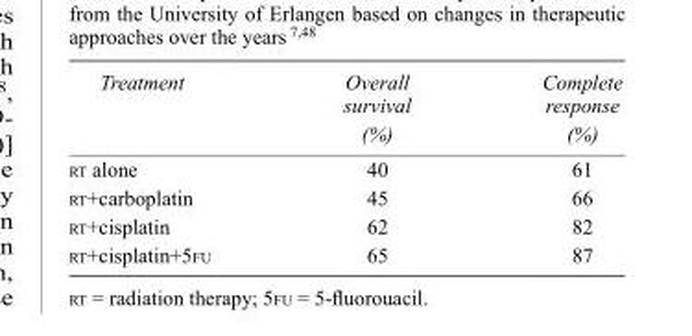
<table><thead><tr><td>Treatment</td><td>Overall survival (%)</td><td>Complete response (%)</td></tr></thead><tbody><tr><td>rt alone</td><td>40</td><td>61</td></tr><tr><td>rt+carboplatin</td><td>45</td><td>66</td></tr><tr><td>rt+cisplatin</td><td>62</td><td>82</td></tr><tr><td>rt+cisplatin+5fu</td><td>65</td><td>87</td></tr></tbody></table>